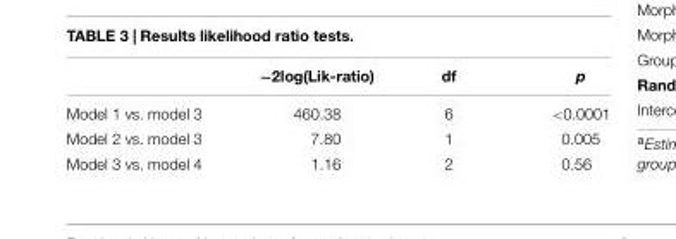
<table><thead><tr><td></td><td>−2log(Lik-ratio)</td><td>df</td><td>p</td></tr></thead><tbody><tr><td>Model 1 vs. model 3</td><td>460.38</td><td>6</td><td>&lt;0.0001</td></tr><tr><td>Model 2 vs. model 3</td><td>7.80</td><td>1</td><td>0.005</td></tr><tr><td>Model 3 vs. model 4</td><td>1.16</td><td>2</td><td>0.56</td></tr></tbody></table>